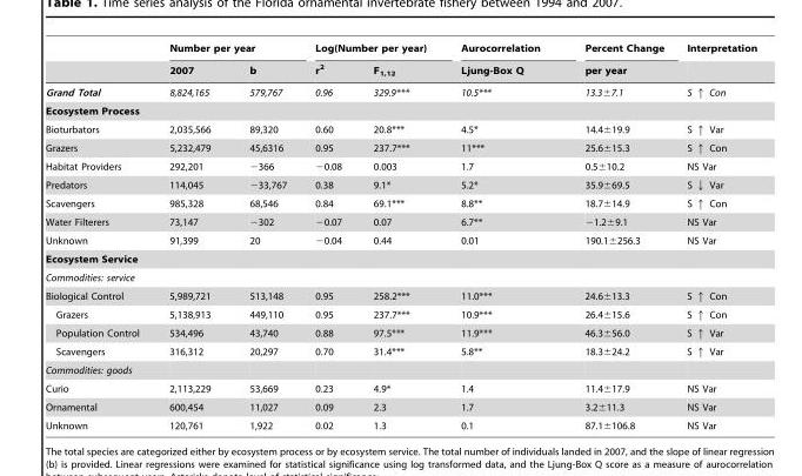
<table><thead><tr><td rowspan="2"></td><td colspan="2">Number per year</td><td colspan="2">Log(Number per year)</td><td rowspan="2">Aurocorrelation Ljung-Box Q</td><td rowspan="2">Percent Change per year</td><td rowspan="2">Interpretation</td></tr><tr><td>2007</td><td>b</td><td>r<sup>2</sup></td><td>F<sub>1,12</sub></td></tr></thead><tbody><tr><td>Grand Total</td><td>8,824,165</td><td>579,767</td><td>0.96</td><td>329.9***</td><td>10.5***</td><td>13.3±7.1</td><td>S ↑ Con</td></tr><tr><td colspan="8">Ecosystem Process</td></tr><tr><td>Bioturbators</td><td>2,035,566</td><td>89,320</td><td>0.60</td><td>20.8***</td><td>4.5*</td><td>14.4±19.9</td><td>S ↑ Var</td></tr><tr><td>Grazers</td><td>5,232,479</td><td>45,6316</td><td>0.95</td><td>237.7***</td><td>11***</td><td>25.6±15.3</td><td>S ↑ Con</td></tr><tr><td>Habitat Providers</td><td>292,201</td><td>−366</td><td>−0.08</td><td>0.003</td><td>1.7</td><td>0.5±10.2</td><td>NS Var</td></tr><tr><td>Predators</td><td>114,045</td><td>−33,767</td><td>0.38</td><td>9.1*</td><td>5.2*</td><td>35.9±69.5</td><td>S ↓ Var</td></tr><tr><td>Scavengers</td><td>985,328</td><td>68,546</td><td>0.84</td><td>69.1***</td><td>8.8**</td><td>18.7±14.9</td><td>S ↑ Con</td></tr><tr><td>Water Filterers</td><td>73,147</td><td>−302</td><td>−0.07</td><td>0.07</td><td>6.7**</td><td>−1.2±9.1</td><td>NS Var</td></tr><tr><td>Unknown</td><td>91,399</td><td>20</td><td>−0.04</td><td>0.44</td><td>0.01</td><td>190.1±256.3</td><td>NS Var</td></tr><tr><td colspan="8">Ecosystem Service</td></tr><tr><td colspan="8">Commodities: service</td></tr><tr><td>Biological Control</td><td>5,989,721</td><td>513,148</td><td>0.95</td><td>258.2***</td><td>11.0***</td><td>24.6±13.3</td><td>S ↑ Con</td></tr><tr><td>Grazers</td><td>5,138,913</td><td>449,110</td><td>0.95</td><td>237.7***</td><td>10.9***</td><td>26.4±15.6</td><td>S ↑ Con</td></tr><tr><td>Population Control</td><td>534,496</td><td>43,740</td><td>0.88</td><td>97.5***</td><td>11.9***</td><td>46.3±56.0</td><td>S ↑ Var</td></tr><tr><td>Scavengers</td><td>316,312</td><td>20,297</td><td>0.70</td><td>31.4***</td><td>5.8**</td><td>18.3±24.2</td><td>S ↑ Var</td></tr><tr><td colspan="8">Commodities: goods</td></tr><tr><td>Curio</td><td>2,113,229</td><td>53,669</td><td>0.23</td><td>4.9*</td><td>1.4</td><td>11.4±17.9</td><td>NS Var</td></tr><tr><td>Ornamental</td><td>600,454</td><td>11,027</td><td>0.09</td><td>2.3</td><td>1.7</td><td>3.2±11.3</td><td>NS Var</td></tr><tr><td>Unknown</td><td>120,761</td><td>1,922</td><td>0.02</td><td>1.3</td><td>0.1</td><td>87.1±106.8</td><td>NS Var</td></tr></tbody></table>